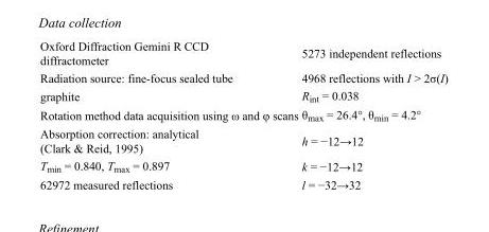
<table><tbody><tr><td>Oxford Diffraction Gemini R CCD diffractometer</td><td>5273 independent reflections</td></tr><tr><td>Radiation source: fine-focus sealed tube</td><td>4968 reflections with I &gt; 2σ(I)</td></tr><tr><td>graphite</td><td>R<sub>int</sub> = 0.038</td></tr><tr><td>Rotation method data acquisition using ω and φ scans</td><td>θ<sub>max</sub> = 26.4°, θ<sub>min</sub> = 4.2°</td></tr><tr><td>Absorption correction: analytical (Clark &amp; Reid, 1995)</td><td>h = −12→12</td></tr><tr><td>T<sub>min</sub> = 0.840, T<sub>max</sub> = 0.897</td><td>k = −12→12</td></tr><tr><td>62972 measured reflections</td><td>l = −32→32</td></tr></tbody></table>